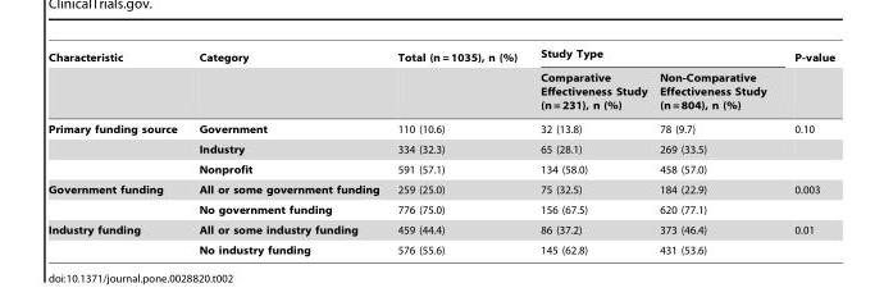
<table><thead><tr><td rowspan="2">Characteristic</td><td rowspan="2">Category</td><td rowspan="2">Total (n = 1035), n (%)</td><td colspan="2">Study Type</td><td rowspan="2">P-value</td></tr><tr><td>Comparative Effectiveness Study (n = 231), n (%)</td><td>Non-Comparative Effectiveness Study (n = 804), n (%)</td></tr></thead><tbody><tr><td rowspan="3">Primary funding source</td><td>Government</td><td>110 (10.6)</td><td>32 (13.8)</td><td>78 (9.7)</td><td>0.10</td></tr><tr><td>Industry</td><td>334 (32.3)</td><td>65 (28.1)</td><td>269 (33.5)</td><td></td></tr><tr><td>Nonprofit</td><td>591 (57.1)</td><td>134 (58.0)</td><td>458 (57.0)</td><td></td></tr><tr><td rowspan="2">Government funding</td><td>All or some government funding</td><td>259 (25.0)</td><td>75 (32.5)</td><td>184 (22.9)</td><td>0.003</td></tr><tr><td>No government funding</td><td>776 (75.0)</td><td>156 (67.5)</td><td>620 (77.1)</td><td></td></tr><tr><td rowspan="2">Industry funding</td><td>All or some industry funding</td><td>459 (44.4)</td><td>86 (37.2)</td><td>373 (46.4)</td><td>0.01</td></tr><tr><td>No industry funding</td><td>576 (55.6)</td><td>145 (62.8)</td><td>431 (53.6)</td><td></td></tr></tbody></table>